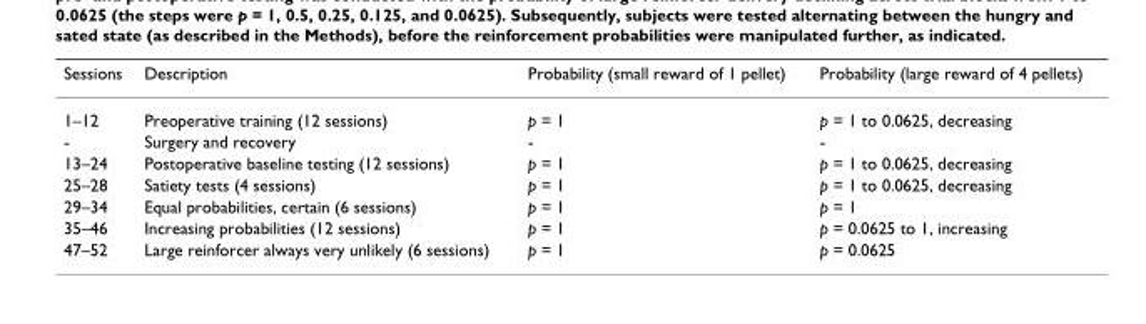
<table><thead><tr><td>Sessions</td><td>Description</td><td>Probability (small reward of 1 pellet)</td><td>Probability (large reward of 4 pellets)</td></tr></thead><tbody><tr><td>1–12</td><td>Preoperative training (12 sessions)</td><td>p = 1</td><td>p = 1 to 0.0625, decreasing</td></tr><tr><td>-</td><td>Surgery and recovery</td><td>-</td><td>-</td></tr><tr><td>13–24</td><td>Postoperative baseline testing (12 sessions)</td><td>p = 1</td><td>p = 1 to 0.0625, decreasing</td></tr><tr><td>25–28</td><td>Satiety tests (4 sessions)</td><td>p = 1</td><td>p = 1 to 0.0625, decreasing</td></tr><tr><td>29–34</td><td>Equal probabilities, certain (6 sessions)</td><td>p = 1</td><td>p = 1</td></tr><tr><td>35–46</td><td>Increasing probabilities (12 sessions)</td><td>p = 1</td><td>p = 0.0625 to 1, increasing</td></tr><tr><td>47–52</td><td>Large reinforcer always very unlikely (6 sessions)</td><td>p = 1</td><td>p = 0.0625</td></tr></tbody></table>